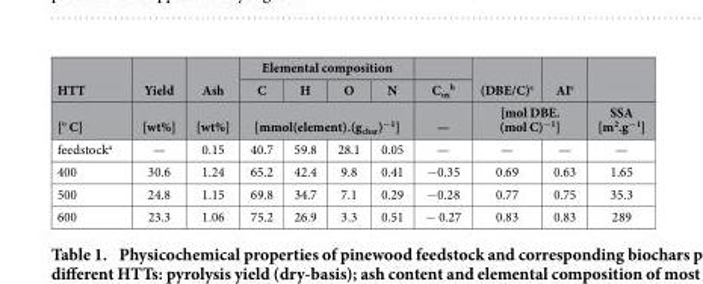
<table><thead><tr><td rowspan="3">HTT [° C]</td><td rowspan="3">Yield [wt%]</td><td rowspan="3">Ash [wt%]</td><td colspan="4">Elemental composition</td><td rowspan="3">C<sub>ox</sub> <sup>b</sup> —</td><td rowspan="2">(DBE/C)<sup>c</sup></td><td rowspan="2">AI<sup>c</sup></td><td rowspan="3">SSA [m<sup>2</sup>.g<sup>−1</sup>]</td></tr><tr><td>C</td><td>H</td><td>O</td><td>N</td></tr><tr><td colspan="4">[mmol(element).(g<sub>char</sub>)<sup>−1</sup>]</td><td colspan="2">[mol DBE. (mol C)<sup>−1</sup>]</td></tr></thead><tbody><tr><td>feedstock<sup>a</sup></td><td>—</td><td>0.15</td><td>40.7</td><td>59.8</td><td>28.1</td><td>0.05</td><td>—</td><td>—</td><td>—</td><td>—</td></tr><tr><td>400</td><td>30.6</td><td>1.24</td><td>65.2</td><td>42.4</td><td>9.8</td><td>0.41</td><td>− 0.35</td><td>0.69</td><td>0.63</td><td>1.65</td></tr><tr><td>500</td><td>24.8</td><td>1.15</td><td>69.8</td><td>34.7</td><td>7.1</td><td>0.29</td><td>− 0.28</td><td>0.77</td><td>0.75</td><td>35.3</td></tr><tr><td>600</td><td>23.3</td><td>1.06</td><td>75.2</td><td>26.9</td><td>3.3</td><td>0.51</td><td>− 0.27</td><td>0.83</td><td>0.83</td><td>289</td></tr></tbody></table>